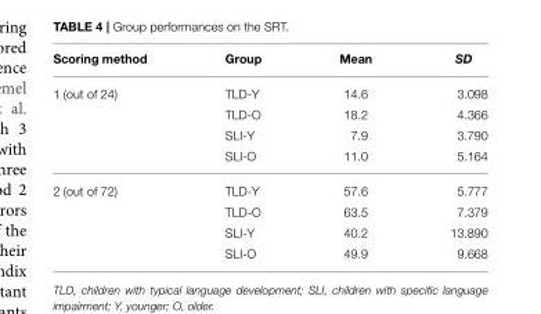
<table><thead><tr><td>Scoring method</td><td>Group</td><td>Mean</td><td>SD</td></tr></thead><tbody><tr><td rowspan="4">1 (out of 24)</td><td>TLD-Y</td><td>14.6</td><td>3.098</td></tr><tr><td>TLD-O</td><td>18.2</td><td>4.366</td></tr><tr><td>SLI-Y</td><td>7.9</td><td>3.790</td></tr><tr><td>SLI-O</td><td>11.0</td><td>5.164</td></tr><tr><td rowspan="4">2 (out of 72)</td><td>TLD-Y</td><td>57.6</td><td>5.777</td></tr><tr><td>TLD-O</td><td>63.5</td><td>7.379</td></tr><tr><td>SLI-Y</td><td>40.2</td><td>13.890</td></tr><tr><td>SLI-O</td><td>49.9</td><td>9.668</td></tr></tbody></table>